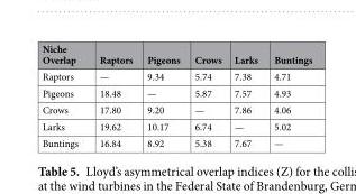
<table><thead><tr><td>Niche Overlap</td><td>Raptors</td><td>Pigeons</td><td>Crows</td><td>Larks</td><td>Buntings</td></tr></thead><tbody><tr><td>Raptors</td><td>—</td><td>9.34</td><td>5.74</td><td>7.38</td><td>4.71</td></tr><tr><td>Pigeons</td><td>18.48</td><td>—</td><td>5.87</td><td>7.57</td><td>4.93</td></tr><tr><td>Crows</td><td>17.80</td><td>9.20</td><td>—</td><td>7.86</td><td>4.06</td></tr><tr><td>Larks</td><td>19.62</td><td>10.17</td><td>6.74</td><td>—</td><td>5.02</td></tr><tr><td>Buntings</td><td>16.84</td><td>8.92</td><td>5.38</td><td>7.67</td><td>—</td></tr></tbody></table>